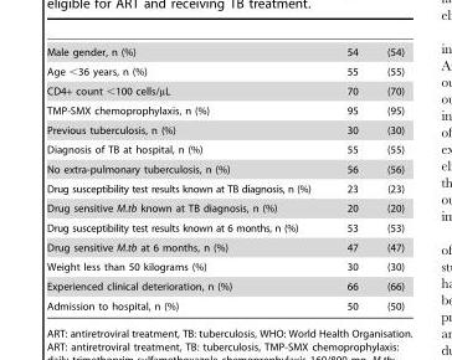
<table><tbody><tr><td>Male gender, n (%)</td><td>54</td><td>(54)</td></tr><tr><td>Age &lt;36 years, n (%)</td><td>55</td><td>(55)</td></tr><tr><td>CD4+ count &lt;100 cells/µL</td><td>70</td><td>(70)</td></tr><tr><td>TMP-SMX chemoprophylaxis, n (%)</td><td>95</td><td>(95)</td></tr><tr><td>Previous tuberculosis, n (%)</td><td>30</td><td>(30)</td></tr><tr><td>Diagnosis of TB at hospital, n (%)</td><td>55</td><td>(55)</td></tr><tr><td>No extra-pulmonary tuberculosis, n (%)</td><td>56</td><td>(56)</td></tr><tr><td>Drug susceptibility test results known at TB diagnosis, n (%)</td><td>23</td><td>(23)</td></tr><tr><td>Drug sensitive M.tb known at TB diagnosis, n (%)</td><td>20</td><td>(20)</td></tr><tr><td>Drug susceptibility test results known at 6 months, n (%)</td><td>53</td><td>(53)</td></tr><tr><td>Drug sensitive M.tb at 6 months, n (%)</td><td>47</td><td>(47)</td></tr><tr><td>Weight less than 50 kilograms (%)</td><td>30</td><td>(30)</td></tr><tr><td>Experienced clinical deterioration, n (%)</td><td>66</td><td>(66)</td></tr><tr><td>Admission to hospital, n (%)</td><td>50</td><td>(50)</td></tr></tbody></table>